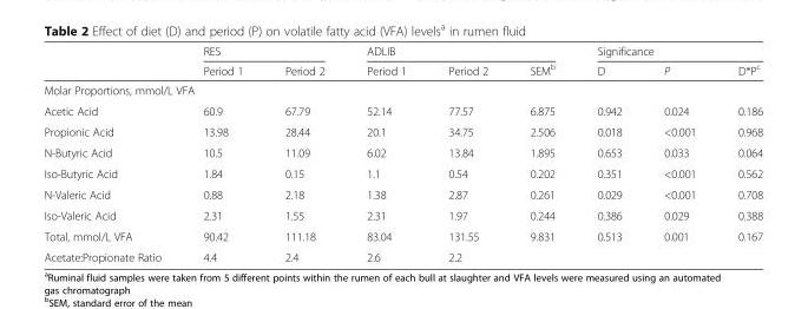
<table><thead><tr><td rowspan="2"></td><td colspan="2">RES</td><td colspan="3">ADLIB</td><td colspan="3">Significance</td></tr><tr><td>Period 1</td><td>Period 2</td><td>Period 1</td><td>Period 2</td><td>SEM<sup>b</sup></td><td>D</td><td>P</td><td>D*P<sup>c</sup></td></tr></thead><tbody><tr><td colspan="9">Molar Proportions, mmol/L VFA</td></tr><tr><td>Acetic Acid</td><td>60.9</td><td>67.79</td><td>52.14</td><td>77.57</td><td>6.875</td><td>0.942</td><td>0.024</td><td>0.186</td></tr><tr><td>Propionic Acid</td><td>13.98</td><td>28.44</td><td>20.1</td><td>34.75</td><td>2.506</td><td>0.018</td><td>&lt;0.001</td><td>0.968</td></tr><tr><td>N-Butyric Acid</td><td>10.5</td><td>11.09</td><td>6.02</td><td>13.84</td><td>1.895</td><td>0.653</td><td>0.033</td><td>0.064</td></tr><tr><td>Iso-Butyric Acid</td><td>1.84</td><td>0.15</td><td>1.1</td><td>0.54</td><td>0.202</td><td>0.351</td><td>&lt;0.001</td><td>0.562</td></tr><tr><td>N-Valeric Acid</td><td>0.88</td><td>2.18</td><td>1.38</td><td>2.87</td><td>0.261</td><td>0.029</td><td>&lt;0.001</td><td>0.708</td></tr><tr><td>Iso-Valeric Acid</td><td>2.31</td><td>1.55</td><td>2.31</td><td>1.97</td><td>0.244</td><td>0.386</td><td>0.029</td><td>0.388</td></tr><tr><td>Total, mmol/L VFA</td><td>90.42</td><td>111.18</td><td>83.04</td><td>131.55</td><td>9.831</td><td>0.513</td><td>0.001</td><td>0.167</td></tr><tr><td>Acetate:Propionate Ratio</td><td>4.4</td><td>2.4</td><td>2.6</td><td>2.2</td><td></td><td></td><td></td><td></td></tr></tbody></table>